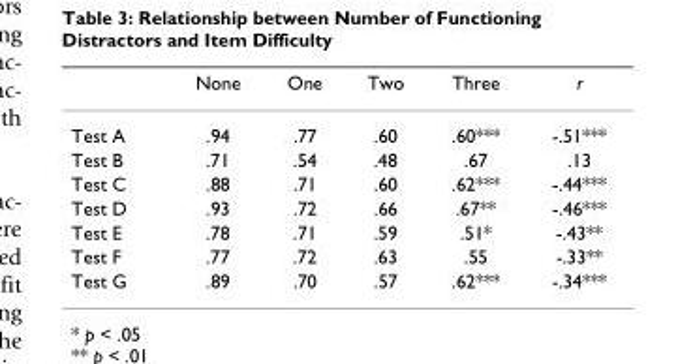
<table><thead><tr><td></td><td>None</td><td>One</td><td>Two</td><td>Three</td><td>r</td></tr></thead><tbody><tr><td>Test A</td><td>.94</td><td>.77</td><td>.60</td><td>.60***</td><td>-.51***</td></tr><tr><td>Test B</td><td>.71</td><td>.54</td><td>.48</td><td>.67</td><td>.13</td></tr><tr><td>Test C</td><td>.88</td><td>.71</td><td>.60</td><td>.62***</td><td>-.44***</td></tr><tr><td>Test D</td><td>.93</td><td>.72</td><td>.66</td><td>.67**</td><td>-.46***</td></tr><tr><td>Test E</td><td>.78</td><td>.71</td><td>.59</td><td>.51*</td><td>-.43**</td></tr><tr><td>Test F</td><td>.77</td><td>.72</td><td>.63</td><td>.55</td><td>-.33**</td></tr><tr><td>Test G</td><td>.89</td><td>.70</td><td>.57</td><td>.62***</td><td>-.34***</td></tr></tbody></table>